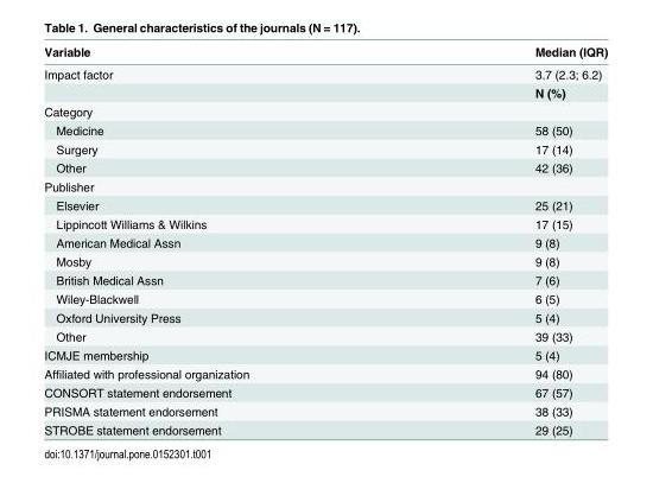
<table><thead><tr><td>Variable</td><td>Median (IQR)</td></tr></thead><tbody><tr><td rowspan="2">Impact factor</td><td>3.7 (2.3; 6.2)</td></tr><tr><td>N (%)</td></tr><tr><td colspan="2">Category</td></tr><tr><td>Medicine</td><td>58 (50)</td></tr><tr><td>Surgery</td><td>17 (14)</td></tr><tr><td>Other</td><td>42 (36)</td></tr><tr><td colspan="2">Publisher</td></tr><tr><td>Elsevier</td><td>25 (21)</td></tr><tr><td>Lippincott Williams &amp; Wilkins</td><td>17 (15)</td></tr><tr><td>American Medical Assn</td><td>9 (8)</td></tr><tr><td>Mosby</td><td>9 (8)</td></tr><tr><td>British Medical Assn</td><td>7 (6)</td></tr><tr><td>Wiley-Blackwell</td><td>6 (5)</td></tr><tr><td>Oxford University Press</td><td>5 (4)</td></tr><tr><td>Other</td><td>39 (33)</td></tr><tr><td>ICMJE membership</td><td>5 (4)</td></tr><tr><td>Affiliated with professional organization</td><td>94 (80)</td></tr><tr><td>CONSORT statement endorsement</td><td>67 (57)</td></tr><tr><td>PRISMA statement endorsement</td><td>38 (33)</td></tr><tr><td>STROBE statement endorsement</td><td>29 (25)</td></tr></tbody></table>